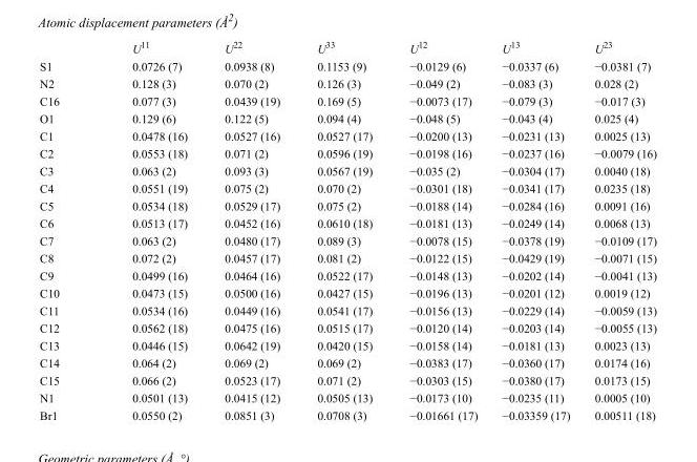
<table><thead><tr><td></td><td>U<sup>11</sup></td><td>U<sup>22</sup></td><td>U<sup>33</sup></td><td>U<sup>12</sup></td><td>U<sup>13</sup></td><td>U<sup>23</sup></td></tr></thead><tbody><tr><td>S1</td><td>0.0726 (7)</td><td>0.0938 (8)</td><td>0.1153 (9)</td><td>−0.0129 (6)</td><td>−0.0337 (6)</td><td>−0.0381 (7)</td></tr><tr><td>N2</td><td>0.128 (3)</td><td>0.070 (2)</td><td>0.126 (3)</td><td>−0.049 (2)</td><td>−0.083 (3)</td><td>0.028 (2)</td></tr><tr><td>C16</td><td>0.077 (3)</td><td>0.0439 (19)</td><td>0.169 (5)</td><td>−0.0073 (17)</td><td>−0.079 (3)</td><td>−0.017 (3)</td></tr><tr><td>O1</td><td>0.129 (6)</td><td>0.122 (5)</td><td>0.094 (4)</td><td>−0.048 (5)</td><td>−0.043 (4)</td><td>0.025 (4)</td></tr><tr><td>C1</td><td>0.0478 (16)</td><td>0.0527 (16)</td><td>0.0527 (17)</td><td>−0.0200 (13)</td><td>−0.0231 (13)</td><td>0.0025 (13)</td></tr><tr><td>C2</td><td>0.0553 (18)</td><td>0.071 (2)</td><td>0.0596 (19)</td><td>−0.0198 (16)</td><td>−0.0237 (16)</td><td>−0.0079 (16)</td></tr><tr><td>C3</td><td>0.063 (2)</td><td>0.093 (3)</td><td>0.0567 (19)</td><td>−0.035 (2)</td><td>−0.0304 (17)</td><td>0.0040 (18)</td></tr><tr><td>C4</td><td>0.0551 (19)</td><td>0.075 (2)</td><td>0.070 (2)</td><td>−0.0301 (18)</td><td>−0.0341 (17)</td><td>0.0235 (18)</td></tr><tr><td>C5</td><td>0.0534 (18)</td><td>0.0529 (17)</td><td>0.075 (2)</td><td>−0.0188 (14)</td><td>−0.0284 (16)</td><td>0.0091 (16)</td></tr><tr><td>C6</td><td>0.0513 (17)</td><td>0.0452 (16)</td><td>0.0610 (18)</td><td>−0.0181 (13)</td><td>−0.0249 (14)</td><td>0.0068 (13)</td></tr><tr><td>C7</td><td>0.063 (2)</td><td>0.0480 (17)</td><td>0.089 (3)</td><td>−0.0078 (15)</td><td>−0.0378 (19)</td><td>−0.0109 (17)</td></tr><tr><td>C8</td><td>0.072 (2)</td><td>0.0457 (17)</td><td>0.081 (2)</td><td>−0.0122 (15)</td><td>−0.0429 (19)</td><td>−0.0071 (15)</td></tr><tr><td>C9</td><td>0.0499 (16)</td><td>0.0464 (16)</td><td>0.0522 (17)</td><td>−0.0148 (13)</td><td>−0.0202 (14)</td><td>−0.0041 (13)</td></tr><tr><td>C10</td><td>0.0473 (15)</td><td>0.0500 (16)</td><td>0.0427 (15)</td><td>−0.0196 (13)</td><td>−0.0201 (12)</td><td>0.0019 (12)</td></tr><tr><td>C11</td><td>0.0534 (16)</td><td>0.0449 (16)</td><td>0.0541 (17)</td><td>−0.0156 (13)</td><td>−0.0229 (14)</td><td>−0.0059 (13)</td></tr><tr><td>C12</td><td>0.0562 (18)</td><td>0.0475 (16)</td><td>0.0515 (17)</td><td>−0.0120 (14)</td><td>−0.0203 (14)</td><td>−0.0055 (13)</td></tr><tr><td>C13</td><td>0.0446 (15)</td><td>0.0642 (19)</td><td>0.0420 (15)</td><td>−0.0158 (14)</td><td>−0.0181 (13)</td><td>0.0023 (13)</td></tr><tr><td>C14</td><td>0.064 (2)</td><td>0.069 (2)</td><td>0.069 (2)</td><td>−0.0383 (17)</td><td>−0.0360 (17)</td><td>0.0174 (16)</td></tr><tr><td>C15</td><td>0.066 (2)</td><td>0.0523 (17)</td><td>0.071 (2)</td><td>−0.0303 (15)</td><td>−0.0380 (17)</td><td>0.0173 (15)</td></tr><tr><td>N1</td><td>0.0501 (13)</td><td>0.0415 (12)</td><td>0.0505 (13)</td><td>−0.0173 (10)</td><td>−0.0235 (11)</td><td>0.0005 (10)</td></tr><tr><td>Br1</td><td>0.0550 (2)</td><td>0.0851 (3)</td><td>0.0708 (3)</td><td>−0.01661 (17)</td><td>−0.03359 (17)</td><td>0.00511 (18)</td></tr></tbody></table>